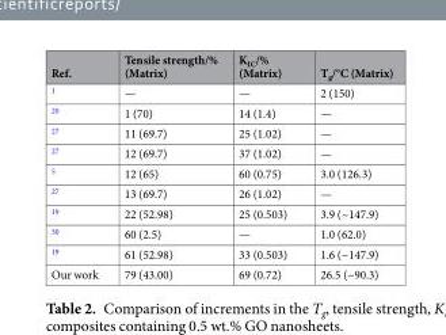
<table><thead><tr><td>Ref.</td><td>Tensile strength/% (Matrix)</td><td>K<sub>IC</sub>/% (Matrix)</td><td>T<sub>g</sub>/°C (Matrix)</td></tr></thead><tbody><tr><td><sup>1</sup></td><td>—</td><td>—</td><td>2 (150)</td></tr><tr><td><sup>20</sup></td><td>1 (70)</td><td>14 (1.4)</td><td>—</td></tr><tr><td><sup>27</sup></td><td>11 (69.7)</td><td>25 (1.02)</td><td>—</td></tr><tr><td><sup>27</sup></td><td>12 (69.7)</td><td>37 (1.02)</td><td>—</td></tr><tr><td><sup>5</sup></td><td>12 (65)</td><td>60 (0.75)</td><td>3.0 (126.3)</td></tr><tr><td><sup>27</sup></td><td>13 (69.7)</td><td>26 (1.02)</td><td>—</td></tr><tr><td><sup>19</sup></td><td>22 (52.98)</td><td>25 (0.503)</td><td>3.9 (~147.9)</td></tr><tr><td><sup>30</sup></td><td>60 (2.5)</td><td>—</td><td>1.0 (62.0)</td></tr><tr><td><sup>19</sup></td><td>61 (52.98)</td><td>33 (0.503)</td><td>1.6 (~147.9)</td></tr><tr><td>Our work</td><td>79 (43.00)</td><td>69 (0.72)</td><td>26.5 (~90.3)</td></tr></tbody></table>